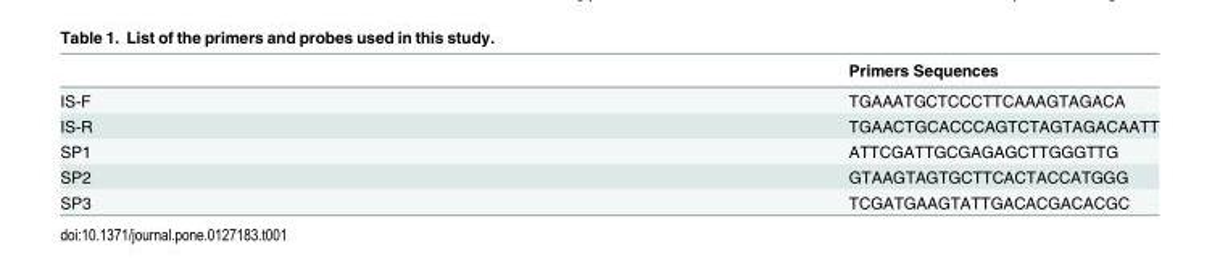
<table><thead><tr><td></td><td>Primers Sequences</td></tr></thead><tbody><tr><td>IS-F</td><td>TGAAATGCTCCCTTCAAAGTAGACA</td></tr><tr><td>IS-R</td><td>TGAACTGCACCCAGTCTAGTAGACAATT</td></tr><tr><td>SP1</td><td>ATTCGATTGCGAGAGCTTGGGTTG</td></tr><tr><td>SP2</td><td>GTAAGTAGTGCTTCACTACCATGGG</td></tr><tr><td>SP3</td><td>TCGATGAAGTATTGACACGACACGC</td></tr></tbody></table>